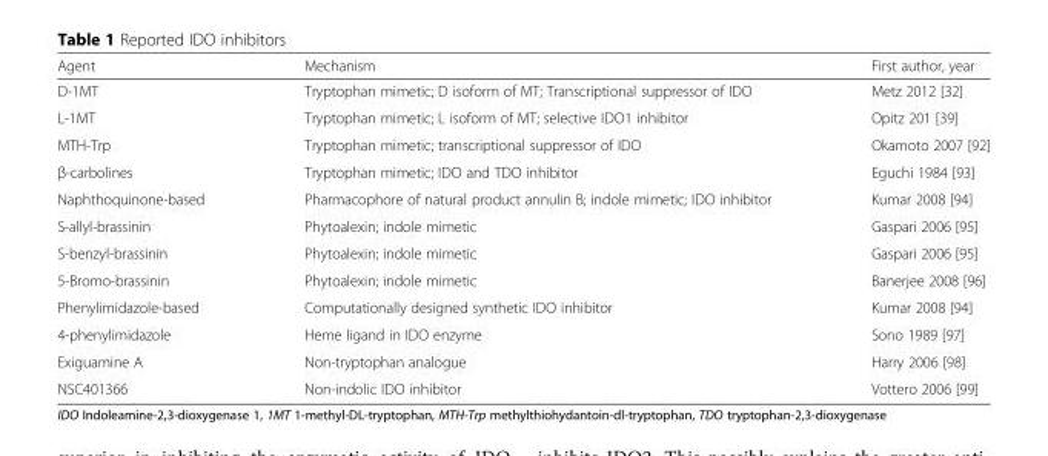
<table><thead><tr><td>Agent</td><td>Mechanism</td><td>First author, year</td></tr></thead><tbody><tr><td>D-1MT</td><td>Tryptophan mimetic; D isoform of MT; Transcriptional suppressor of IDO</td><td>Metz 2012 [32]</td></tr><tr><td>L-1MT</td><td>Tryptophan mimetic; L isoform of MT; selective IDO1 inhibitor</td><td>Opitz 201 [39]</td></tr><tr><td>MTH-Trp</td><td>Tryptophan mimetic; transcriptional suppressor of IDO</td><td>Okamoto 2007 [92]</td></tr><tr><td>β-carbolines</td><td>Tryptophan mimetic; IDO and TDO inhibitor</td><td>Eguchi 1984 [93]</td></tr><tr><td>Naphthoquinone-based</td><td>Pharmacophore of natural product annulin B; indole mimetic; IDO inhibitor</td><td>Kumar 2008 [94]</td></tr><tr><td>S-allyl-brassinin</td><td>Phytoalexin; indole mimetic</td><td>Gaspari 2006 [95]</td></tr><tr><td>S-benzyl-brassinin</td><td>Phytoalexin; indole mimetic</td><td>Gaspari 2006 [95]</td></tr><tr><td>5-Bromo-brassinin</td><td>Phytoalexin; indole mimetic</td><td>Banerjee 2008 [96]</td></tr><tr><td>Phenylimidazole-based</td><td>Computationally designed synthetic IDO inhibitor</td><td>Kumar 2008 [94]</td></tr><tr><td>4-phenylimidazole</td><td>Heme ligand in IDO enzyme</td><td>Sono 1989 [97]</td></tr><tr><td>Exiguamine A</td><td>Non-tryptophan analogue</td><td>Harry 2006 [98]</td></tr><tr><td>NSC401366</td><td>Non-indolic IDO inhibitor</td><td>Vottero 2006 [99]</td></tr></tbody></table>